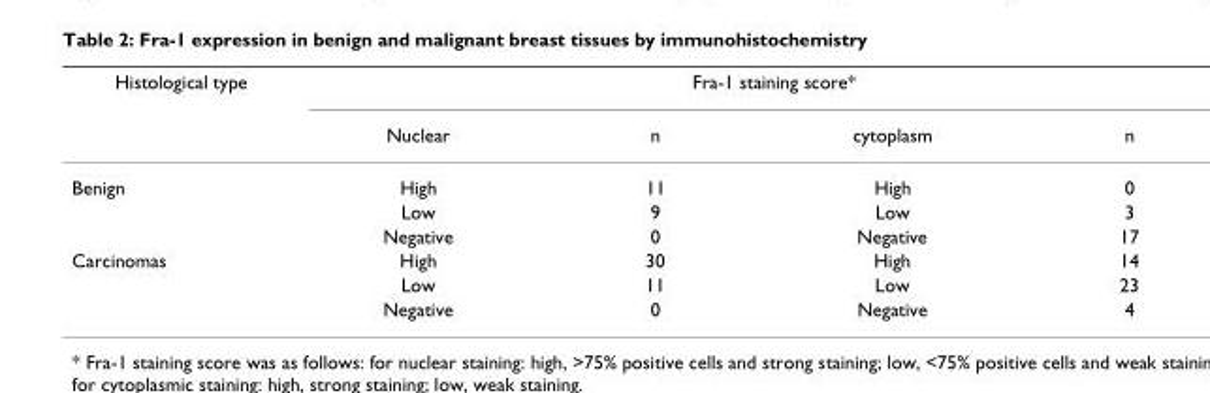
<table><thead><tr><td rowspan="2">Histological type</td><td colspan="4">Fra-1 staining score*</td></tr><tr><td>Nuclear</td><td>n</td><td>cytoplasm</td><td>n</td></tr></thead><tbody><tr><td rowspan="3">Benign</td><td>High</td><td>11</td><td>High</td><td>0</td></tr><tr><td>Low</td><td>9</td><td>Low</td><td>3</td></tr><tr><td>Negative</td><td>0</td><td>Negative</td><td>17</td></tr><tr><td rowspan="3">Carcinomas</td><td>High</td><td>30</td><td>High</td><td>14</td></tr><tr><td>Low</td><td>11</td><td>Low</td><td>23</td></tr><tr><td>Negative</td><td>0</td><td>Negative</td><td>4</td></tr></tbody></table>